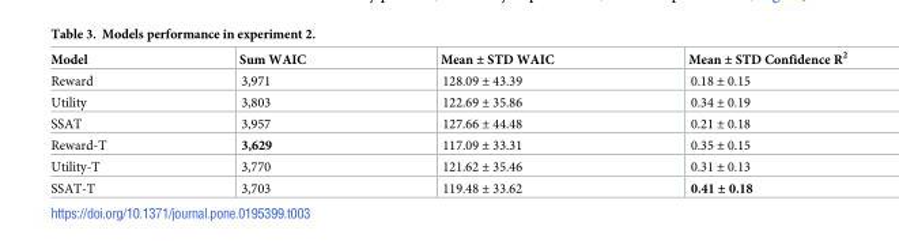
<table><thead><tr><td>Model</td><td>Sum WAIC</td><td>Mean ± STD WAIC</td><td>Mean ± STD Confidence R<sup>2</sup></td></tr></thead><tbody><tr><td>Reward</td><td>3,971</td><td>128.09 ± 43.39</td><td>0.18 ± 0.15</td></tr><tr><td>Utility</td><td>3,803</td><td>122.69 ± 35.86</td><td>0.34 ± 0.19</td></tr><tr><td>SSAT</td><td>3,957</td><td>127.66 ± 44.48</td><td>0.21 ± 0.18</td></tr><tr><td>Reward-T</td><td>3,629</td><td>117.09 ± 33.31</td><td>0.35 ± 0.15</td></tr><tr><td>Utility-T</td><td>3,770</td><td>121.62 ± 35.46</td><td>0.31 ± 0.13</td></tr><tr><td>SSAT-T</td><td>3,703</td><td>119.48 ± 33.62</td><td>0.41 ± 0.18</td></tr></tbody></table>